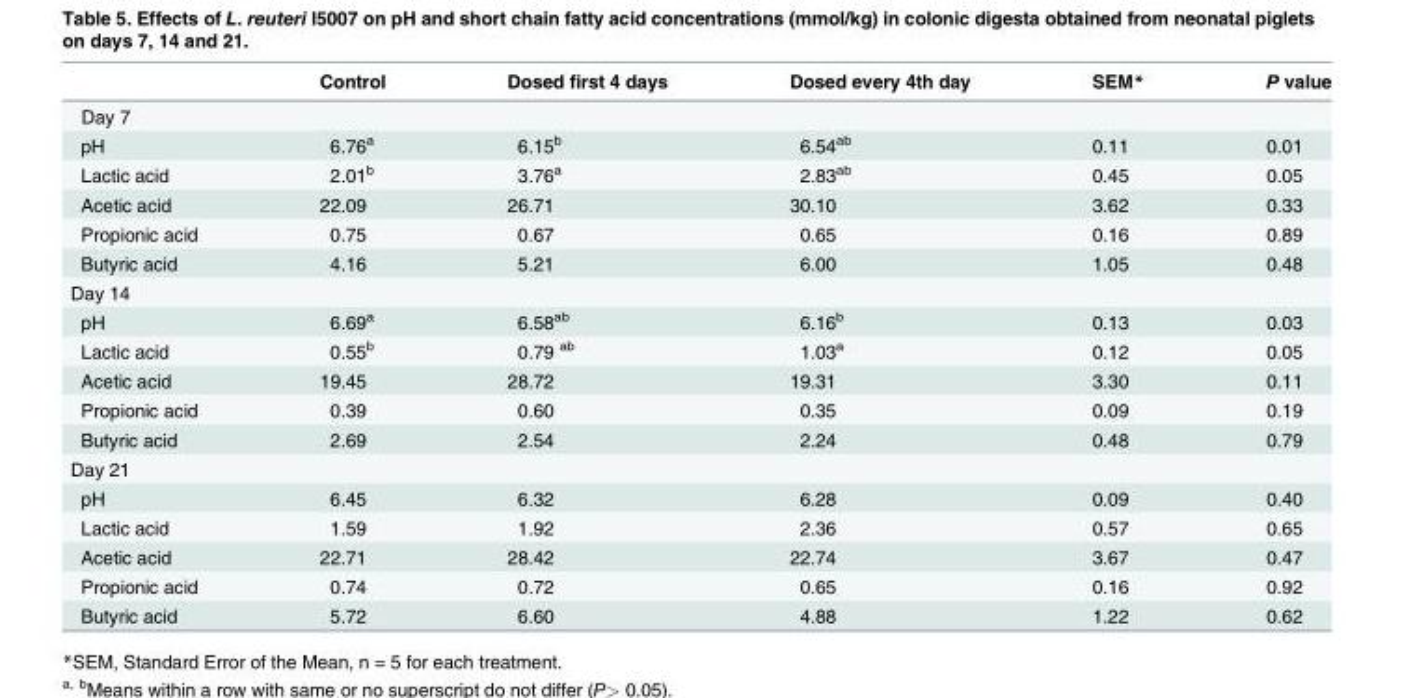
<table><thead><tr><td></td><td>Control</td><td>Dosed first 4 days</td><td>Dosed every 4th day</td><td>SEM*</td><td>P value</td></tr></thead><tbody><tr><td colspan="6">Day 7</td></tr><tr><td>pH</td><td>6.76<sup>a</sup></td><td>6.15<sup>b</sup></td><td>6.54<sup>ab</sup></td><td>0.11</td><td>0.01</td></tr><tr><td>Lactic acid</td><td>2.01<sup>b</sup></td><td>3.76<sup>a</sup></td><td>2.83<sup>ab</sup></td><td>0.45</td><td>0.05</td></tr><tr><td>Acetic acid</td><td>22.09</td><td>26.71</td><td>30.10</td><td>3.62</td><td>0.33</td></tr><tr><td>Propionic acid</td><td>0.75</td><td>0.67</td><td>0.65</td><td>0.16</td><td>0.89</td></tr><tr><td>Butyric acid</td><td>4.16</td><td>5.21</td><td>6.00</td><td>1.05</td><td>0.48</td></tr><tr><td colspan="6">Day 14</td></tr><tr><td>pH</td><td>6.69<sup>a</sup></td><td>6.58<sup>ab</sup></td><td>6.16<sup>b</sup></td><td>0.13</td><td>0.03</td></tr><tr><td>Lactic acid</td><td>0.55<sup>b</sup></td><td>0.79 <sup>ab</sup></td><td>1.03<sup>a</sup></td><td>0.12</td><td>0.05</td></tr><tr><td>Acetic acid</td><td>19.45</td><td>28.72</td><td>19.31</td><td>3.30</td><td>0.11</td></tr><tr><td>Propionic acid</td><td>0.39</td><td>0.60</td><td>0.35</td><td>0.09</td><td>0.19</td></tr><tr><td>Butyric acid</td><td>2.69</td><td>2.54</td><td>2.24</td><td>0.48</td><td>0.79</td></tr><tr><td colspan="6">Day 21</td></tr><tr><td>pH</td><td>6.45</td><td>6.32</td><td>6.28</td><td>0.09</td><td>0.40</td></tr><tr><td>Lactic acid</td><td>1.59</td><td>1.92</td><td>2.36</td><td>0.57</td><td>0.65</td></tr><tr><td>Acetic acid</td><td>22.71</td><td>28.42</td><td>22.74</td><td>3.67</td><td>0.47</td></tr><tr><td>Propionic acid</td><td>0.74</td><td>0.72</td><td>0.65</td><td>0.16</td><td>0.92</td></tr><tr><td>Butyric acid</td><td>5.72</td><td>6.60</td><td>4.88</td><td>1.22</td><td>0.62</td></tr></tbody></table>